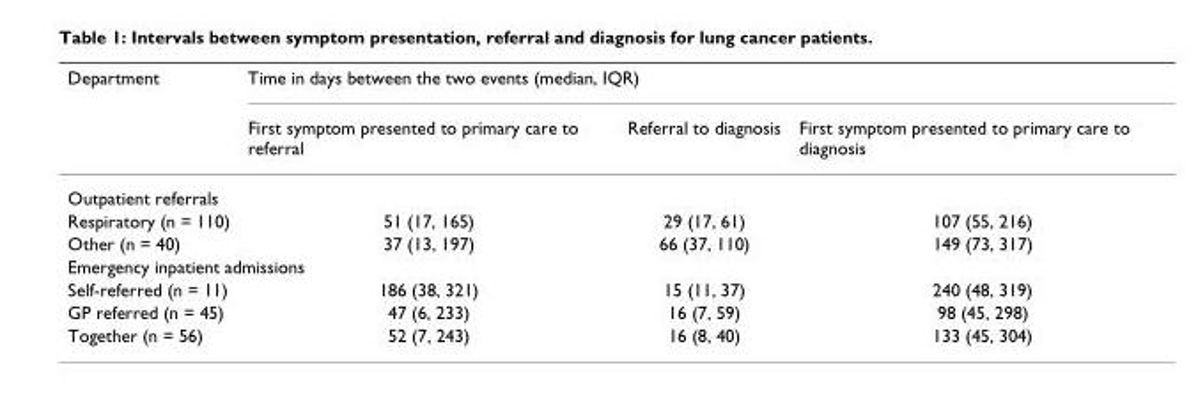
<table><thead><tr><td rowspan="2">Department</td><td colspan="3">Time in days between the two events (median, IQR)</td></tr><tr><td>First symptom presented to primary care to referral</td><td>Referral to diagnosis</td><td>First symptom presented to primary care to diagnosis</td></tr></thead><tbody><tr><td colspan="4">Outpatient referrals</td></tr><tr><td>Respiratory (n = 110)</td><td>51 (17, 165)</td><td>29 (17, 61)</td><td>107 (55, 216)</td></tr><tr><td>Other (n = 40)</td><td>37 (13, 197)</td><td>66 (37, 110)</td><td>149 (73, 317)</td></tr><tr><td colspan="4">Emergency inpatient admissions</td></tr><tr><td>Self-referred (n = 11)</td><td>186 (38, 321)</td><td>15 (11, 37)</td><td>240 (48, 319)</td></tr><tr><td>GP referred (n = 45)</td><td>47 (6, 233)</td><td>16 (7, 59)</td><td>98 (45, 298)</td></tr><tr><td>Together (n = 56)</td><td>52 (7, 243)</td><td>16 (8, 40)</td><td>133 (45, 304)</td></tr></tbody></table>